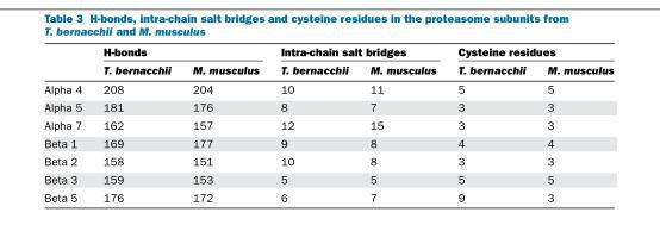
<table><thead><tr><td rowspan="2"></td><td colspan="2">H-bonds</td><td colspan="2">Intra-chain salt bridges</td><td colspan="2">Cysteine residues</td></tr><tr><td>T. bernacchii</td><td>M. musculus</td><td>T. bernacchii</td><td>M. musculus</td><td>T. bernacchii</td><td>M. musculus</td></tr></thead><tbody><tr><td>Alpha 4</td><td>208</td><td>204</td><td>10</td><td>11</td><td>5</td><td>5</td></tr><tr><td>Alpha 5</td><td>181</td><td>176</td><td>8</td><td>7</td><td>3</td><td>3</td></tr><tr><td>Alpha 7</td><td>162</td><td>157</td><td>12</td><td>15</td><td>3</td><td>3</td></tr><tr><td>Beta 1</td><td>169</td><td>177</td><td>9</td><td>8</td><td>4</td><td>4</td></tr><tr><td>Beta 2</td><td>158</td><td>151</td><td>10</td><td>8</td><td>3</td><td>3</td></tr><tr><td>Beta 3</td><td>159</td><td>153</td><td>5</td><td>5</td><td>5</td><td>5</td></tr><tr><td>Beta 5</td><td>176</td><td>172</td><td>6</td><td>7</td><td>9</td><td>3</td></tr></tbody></table>